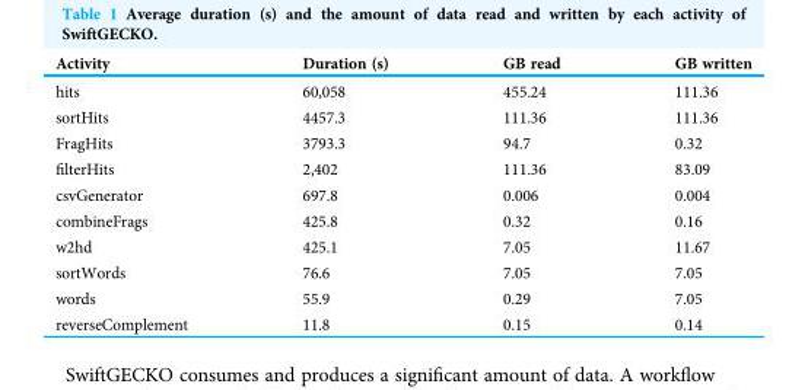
<table><thead><tr><td>Activity</td><td>Duration (s)</td><td>GB read</td><td>GB written</td></tr></thead><tbody><tr><td>hits</td><td>60,058</td><td>455.24</td><td>111.36</td></tr><tr><td>sortHits</td><td>4457.3</td><td>111.36</td><td>111.36</td></tr><tr><td>FragHits</td><td>3793.3</td><td>94.7</td><td>0.32</td></tr><tr><td>filterHits</td><td>2,402</td><td>111.36</td><td>83.09</td></tr><tr><td>csvGenerator</td><td>697.8</td><td>0.006</td><td>0.004</td></tr><tr><td>combineFrags</td><td>425.8</td><td>0.32</td><td>0.16</td></tr><tr><td>w2hd</td><td>425.1</td><td>7.05</td><td>11.67</td></tr><tr><td>sortWords</td><td>76.6</td><td>7.05</td><td>7.05</td></tr><tr><td>words</td><td>55.9</td><td>0.29</td><td>7.05</td></tr><tr><td>reverseComplement</td><td>11.8</td><td>0.15</td><td>0.14</td></tr></tbody></table>